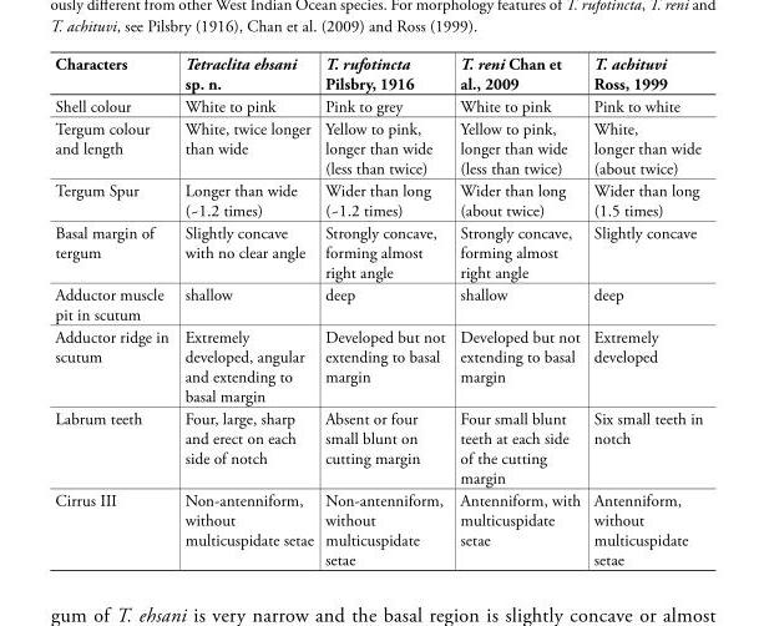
<table><thead><tr><td>Characters</td><td>Tetraclita ehsani sp. n.</td><td>T. rufotincta Pilsbry, 1916</td><td>T. reni Chan et al., 2009</td><td>T. achituvi Ross, 1999</td></tr></thead><tbody><tr><td>Shell colour</td><td>White to pink</td><td>Pink to grey</td><td>White to pink</td><td>Pink to white</td></tr><tr><td>Tergum colour and length</td><td>White, twice longer than wide</td><td>Yellow to pink, longer than wide (less than twice)</td><td>Yellow to pink, longer than wide (less than twice)</td><td>White, longer than wide (about twice)</td></tr><tr><td>Tergum Spur</td><td>Longer than wide (~1.2 times)</td><td>Wider than long (~1.2 times)</td><td>Wider than long (about twice)</td><td>Wider than long (1.5 times)</td></tr><tr><td>Basal margin of tergum</td><td>Slightly concave with no clear angle</td><td>Strongly concave, forming almost right angle</td><td>Strongly concave, forming almost right angle</td><td>Slightly concave</td></tr><tr><td>Adductor muscle pit in scutum</td><td>shallow</td><td>deep</td><td>shallow</td><td>deep</td></tr><tr><td>Adductor ridge in scutum</td><td>Extremely developed, angular and extending to basal margin</td><td>Developed but not extending to basal margin</td><td>Developed but not extending to basal margin</td><td>Extremely developed</td></tr><tr><td>Labrum teeth</td><td>Four, large, sharp and erect on each side of notch</td><td>Absent or four small blunt on cutting margin</td><td>Four small blunt teeth at each side of the cutting margin</td><td>Six small teeth in notch</td></tr><tr><td>Cirrus III</td><td>Non-antenniform, without multicuspidate setae</td><td>Non-antenniform, without multicuspidate setae</td><td>Antenniform, with multicuspidate setae</td><td>Antenniform, without multicuspidate setae</td></tr></tbody></table>